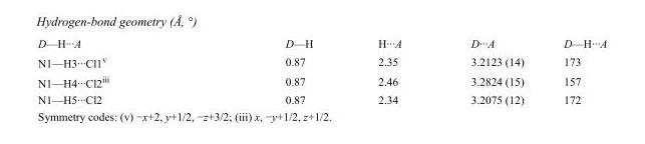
<table><tbody><tr><td>D—H···A</td><td>D—H</td><td>H···A</td><td>D···A</td><td>D—H···A</td></tr><tr><td>N1—H3···Cl1<sup>v</sup></td><td>0.87</td><td>2.35</td><td>3.2123 (14)</td><td>173</td></tr><tr><td>N1—H4···Cl2<sup>iii</sup></td><td>0.87</td><td>2.46</td><td>3.2824 (15)</td><td>157</td></tr><tr><td>N1—H5···Cl2</td><td>0.87</td><td>2.34</td><td>3.2075 (12)</td><td>172</td></tr></tbody></table>